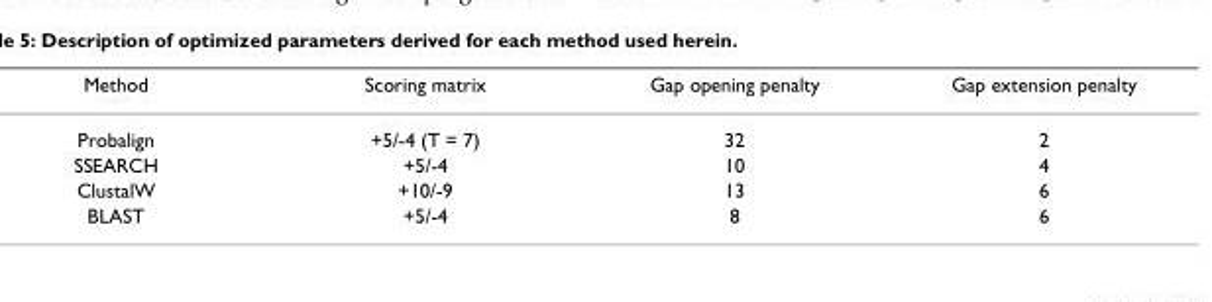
<table><thead><tr><td>Method</td><td>Scoring matrix</td><td>Gap opening penalty</td><td>Gap extension penalty</td></tr></thead><tbody><tr><td>Probalign</td><td>+5/-4 (T = 7)</td><td>32</td><td>2</td></tr><tr><td>SSEARCH</td><td>+5/-4</td><td>10</td><td>4</td></tr><tr><td>ClustalW</td><td>+10/-9</td><td>13</td><td>6</td></tr><tr><td>BLAST</td><td>+5/-4</td><td>8</td><td>6</td></tr></tbody></table>